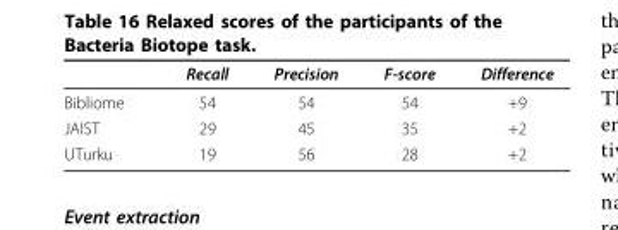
<table><thead><tr><td></td><td>Recall</td><td>Precision</td><td>F-score</td><td>Difference</td></tr></thead><tbody><tr><td>Bibliome</td><td>54</td><td>54</td><td>54</td><td>+9</td></tr><tr><td>JAIST</td><td>29</td><td>45</td><td>35</td><td>+2</td></tr><tr><td>UTurku</td><td>19</td><td>56</td><td>28</td><td>+2</td></tr></tbody></table>